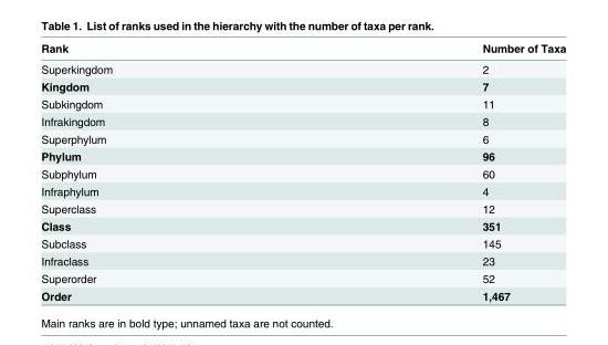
<table><thead><tr><td>Rank</td><td>Number of Taxa</td></tr></thead><tbody><tr><td>Superkingdom</td><td>2</td></tr><tr><td>Kingdom</td><td>7</td></tr><tr><td>Subkingdom</td><td>11</td></tr><tr><td>Infrakingdom</td><td>8</td></tr><tr><td>Superphylum</td><td>6</td></tr><tr><td>Phylum</td><td>96</td></tr><tr><td>Subphylum</td><td>60</td></tr><tr><td>Infraphylum</td><td>4</td></tr><tr><td>Superclass</td><td>12</td></tr><tr><td>Class</td><td>351</td></tr><tr><td>Subclass</td><td>145</td></tr><tr><td>Infraclass</td><td>23</td></tr><tr><td>Superorder</td><td>52</td></tr><tr><td>Order</td><td>1,467</td></tr></tbody></table>